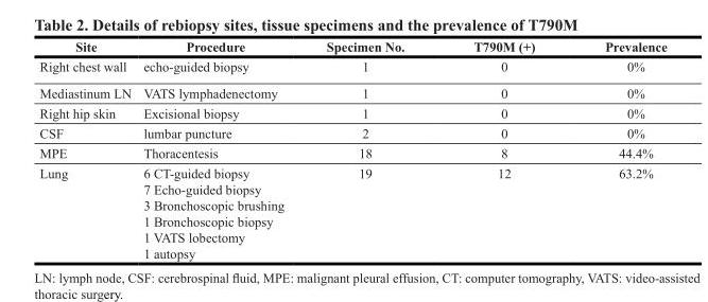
<table><thead><tr><td>Site</td><td>Procedure</td><td>Specimen No.</td><td>T790M (+)</td><td>Prevalence</td></tr></thead><tbody><tr><td>Right chest wall</td><td>echo-guided biopsy</td><td>1</td><td>0</td><td>0%</td></tr><tr><td>Mediastinum LN</td><td>VATS lymphadenectomy</td><td>1</td><td>0</td><td>0%</td></tr><tr><td>Right hip skin</td><td>Excisional biopsy</td><td>1</td><td>0</td><td>0%</td></tr><tr><td>CSF</td><td>lumbar puncture</td><td>2</td><td>0</td><td>0%</td></tr><tr><td>MPE</td><td>Thoracentesis</td><td>18</td><td>8</td><td>44.4%</td></tr><tr><td>Lung</td><td>6 CT-guided biopsy 7 Echo-guided biopsy 3 Bronchoscopic brushing 1 Bronchoscopic biopsy 1 VATS lobectomy 1 autopsy</td><td>19</td><td>12</td><td>63.2%</td></tr></tbody></table>